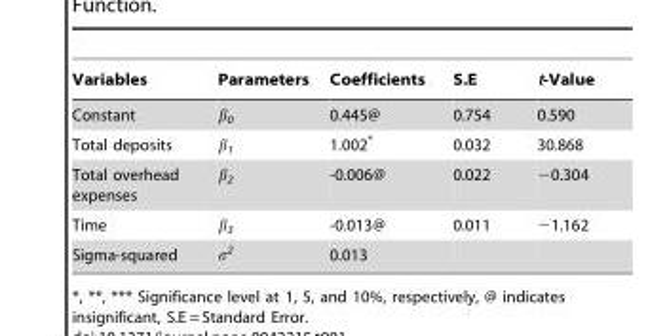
<table><thead><tr><td>Variables</td><td>Parameters</td><td>Coefficients</td><td>S.E</td><td>t-Value</td></tr></thead><tbody><tr><td>Constant</td><td>β<sub>0</sub></td><td>0.445@</td><td>0.754</td><td>0.590</td></tr><tr><td>Total deposits</td><td>β<sub>1</sub></td><td>1.002*</td><td>0.032</td><td>30.868</td></tr><tr><td>Total overhead expenses</td><td>β<sub>2</sub></td><td>-0.006@</td><td>0.022</td><td>−0.304</td></tr><tr><td>Time</td><td>β<sub>3</sub></td><td>-0.013@</td><td>0.011</td><td>−1.162</td></tr><tr><td>Sigma-squared</td><td>σ<sup>2</sup></td><td>0.013</td><td></td><td></td></tr></tbody></table>